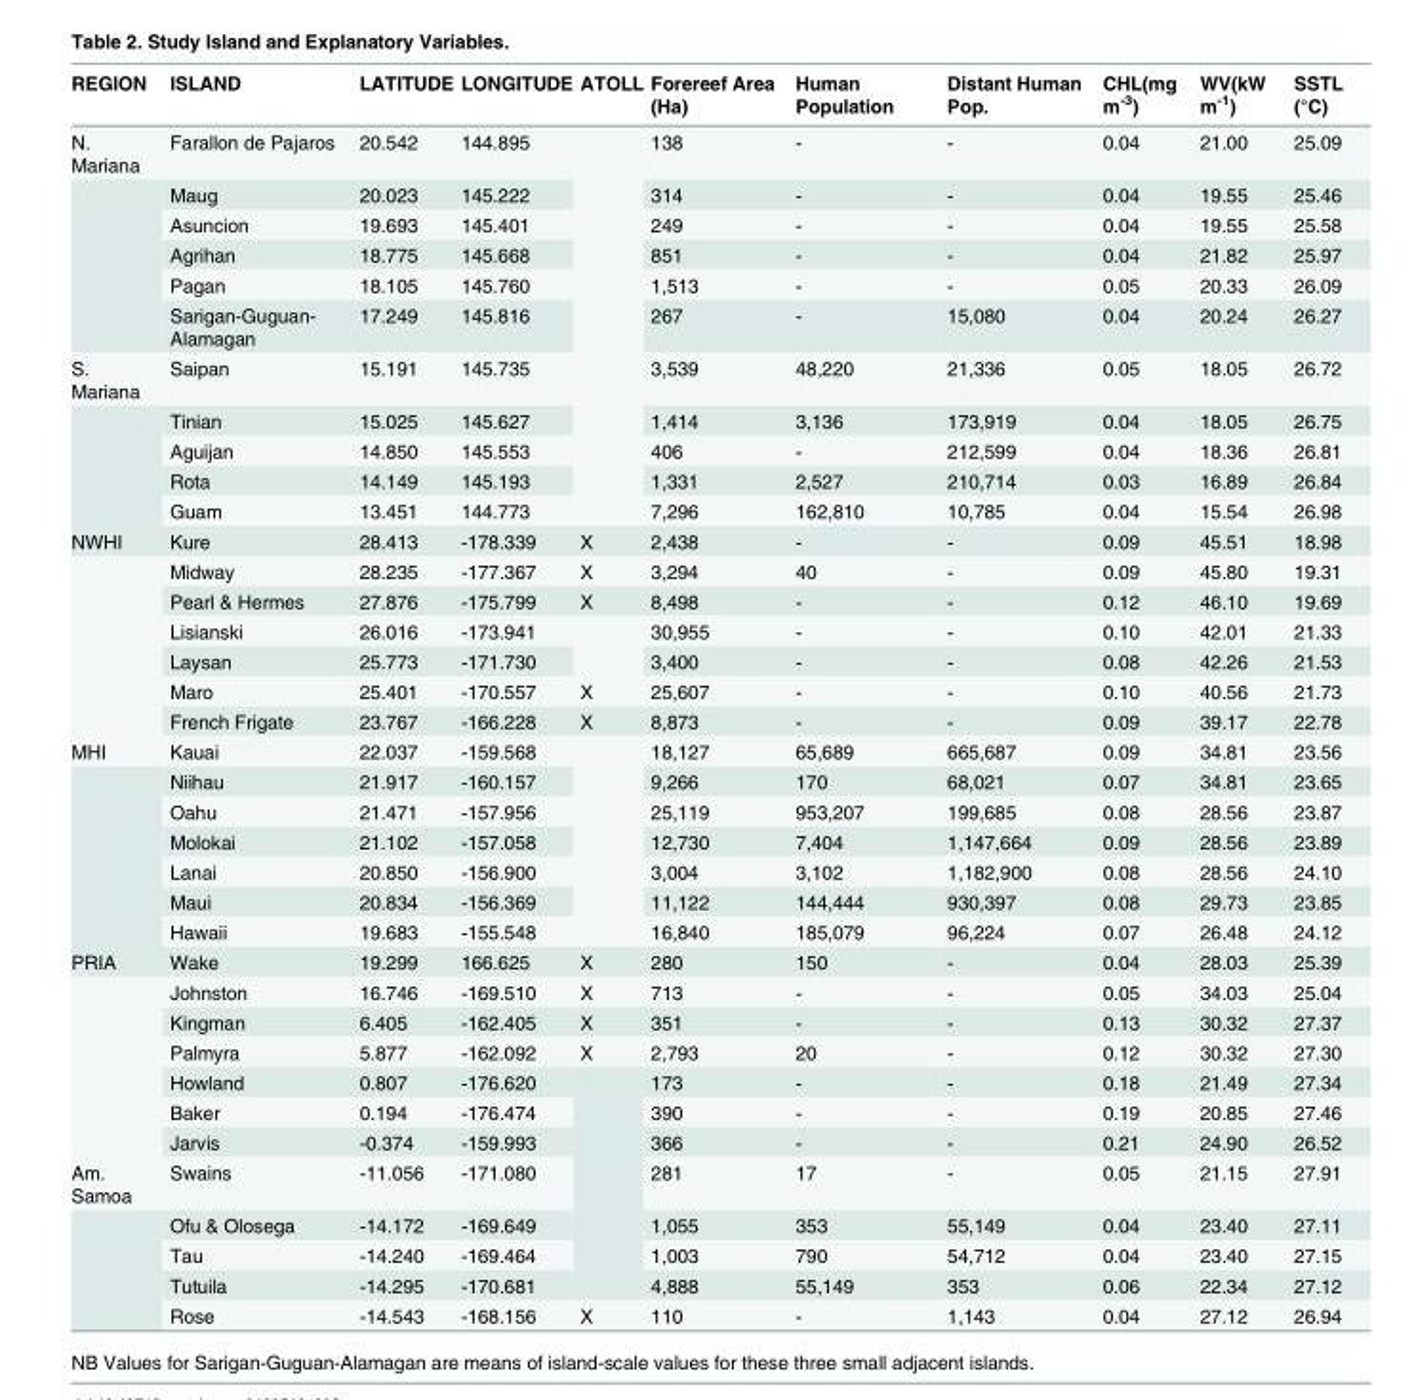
<table><thead><tr><td>REGION</td><td>ISLAND</td><td>LATITUDE</td><td>LONGITUDE</td><td>ATOLL</td><td>Forereef Area (Ha)</td><td>Human Population</td><td>Distant Human Pop.</td><td>CHL(mg m<sup>-3</sup>)</td><td>WV(kW m<sup>-1</sup>)</td><td>SSTL (°C)</td></tr></thead><tbody><tr><td rowspan="6">N. Mariana</td><td>Farallon de Pajaros</td><td>20.542</td><td>144.895</td><td rowspan="11"></td><td>138</td><td>-</td><td>-</td><td>0.04</td><td>21.00</td><td>25.09</td></tr><tr><td>Maug</td><td>20.023</td><td>145.222</td><td>314</td><td>-</td><td>-</td><td>0.04</td><td>19.55</td><td>25.46</td></tr><tr><td>Asuncion</td><td>19.693</td><td>145.401</td><td>249</td><td>-</td><td>-</td><td>0.04</td><td>19.55</td><td>25.58</td></tr><tr><td>Agrihan</td><td>18.775</td><td>145.668</td><td>851</td><td>-</td><td>-</td><td>0.04</td><td>21.82</td><td>25.97</td></tr><tr><td>Pagan</td><td>18.105</td><td>145.760</td><td>1,513</td><td>-</td><td>-</td><td>0.05</td><td>20.33</td><td>26.09</td></tr><tr><td>Sarigan-Guguan- Alamagan</td><td>17.249</td><td>145.816</td><td>267</td><td>-</td><td>15,080</td><td>0.04</td><td>20.24</td><td>26.27</td></tr><tr><td rowspan="5">S. Mariana</td><td>Saipan</td><td>15.191</td><td>145.735</td><td>3,539</td><td>48,220</td><td>21,336</td><td>0.05</td><td>18.05</td><td>26.72</td></tr><tr><td>Tinian</td><td>15.025</td><td>145.627</td><td>1,414</td><td>3,136</td><td>173,919</td><td>0.04</td><td>18.05</td><td>26.75</td></tr><tr><td>Aguijan</td><td>14.850</td><td>145.553</td><td>406</td><td>-</td><td>212,599</td><td>0.04</td><td>18.36</td><td>26.81</td></tr><tr><td>Rota</td><td>14.149</td><td>145.193</td><td>1,331</td><td>2,527</td><td>210,714</td><td>0.03</td><td>16.89</td><td>26.84</td></tr><tr><td>Guam</td><td>13.451</td><td>144.773</td><td>7,296</td><td>162,810</td><td>10,785</td><td>0.04</td><td>15.54</td><td>26.98</td></tr><tr><td rowspan="7">NWHI</td><td>Kure</td><td>28.413</td><td>-178.339</td><td>X</td><td>2,438</td><td>-</td><td>-</td><td>0.09</td><td>45.51</td><td>18.98</td></tr><tr><td>Midway</td><td>28.235</td><td>-177.367</td><td>X</td><td>3,294</td><td>40</td><td>-</td><td>0.09</td><td>45.80</td><td>19.31</td></tr><tr><td>Pearl &amp; Hermes</td><td>27.876</td><td>-175.799</td><td>X</td><td>8,498</td><td>-</td><td>-</td><td>0.12</td><td>46.10</td><td>19.69</td></tr><tr><td>Lisianski</td><td>26.016</td><td>-173.941</td><td rowspan="2"></td><td>30,955</td><td>-</td><td>-</td><td>0.10</td><td>42.01</td><td>21.33</td></tr><tr><td>Laysan</td><td>25.773</td><td>-171.730</td><td>3,400</td><td>-</td><td>-</td><td>0.08</td><td>42.26</td><td>21.53</td></tr><tr><td>Maro</td><td>25.401</td><td>-170.557</td><td>X</td><td>25,607</td><td>-</td><td>-</td><td>0.10</td><td>40.56</td><td>21.73</td></tr><tr><td>French Frigate</td><td>23.767</td><td>-166.228</td><td>X</td><td>8,873</td><td>-</td><td>-</td><td>0.09</td><td>39.17</td><td>22.78</td></tr><tr><td rowspan="7">MHI</td><td>Kauai</td><td>22.037</td><td>-159.568</td><td rowspan="7"></td><td>18,127</td><td>65,689</td><td>665,687</td><td>0.09</td><td>34.81</td><td>23.56</td></tr><tr><td>Niihau</td><td>21.917</td><td>-160.157</td><td>9,266</td><td>170</td><td>68,021</td><td>0.07</td><td>34.81</td><td>23.65</td></tr><tr><td>Oahu</td><td>21.471</td><td>-157.956</td><td>25,119</td><td>953,207</td><td>199,685</td><td>0.08</td><td>28.56</td><td>23.87</td></tr><tr><td>Molokai</td><td>21.102</td><td>-157.058</td><td>12,730</td><td>7,404</td><td>1,147,664</td><td>0.09</td><td>28.56</td><td>23.89</td></tr><tr><td>Lanai</td><td>20.850</td><td>-156.900</td><td>3,004</td><td>3,102</td><td>1,182,900</td><td>0.08</td><td>28.56</td><td>24.10</td></tr><tr><td>Maui</td><td>20.834</td><td>-156.369</td><td>11,122</td><td>144,444</td><td>930,397</td><td>0.08</td><td>29.73</td><td>23.85</td></tr><tr><td>Hawaii</td><td>19.683</td><td>-155.548</td><td>16,840</td><td>185,079</td><td>96,224</td><td>0.07</td><td>26.48</td><td>24.12</td></tr><tr><td rowspan="7">PRIA</td><td>Wake</td><td>19.299</td><td>166.625</td><td>X</td><td>280</td><td>150</td><td>-</td><td>0.04</td><td>28.03</td><td>25.39</td></tr><tr><td>Johnston</td><td>16.746</td><td>-169.510</td><td>X</td><td>713</td><td>-</td><td>-</td><td>0.05</td><td>34.03</td><td>25.04</td></tr><tr><td>Kingman</td><td>6.405</td><td>-162.405</td><td>X</td><td>351</td><td>-</td><td>-</td><td>0.13</td><td>30.32</td><td>27.37</td></tr><tr><td>Palmyra</td><td>5.877</td><td>-162.092</td><td>X</td><td>2,793</td><td>20</td><td>-</td><td>0.12</td><td>30.32</td><td>27.30</td></tr><tr><td>Howland</td><td>0.807</td><td>-176.620</td><td rowspan="7"></td><td>173</td><td>-</td><td>-</td><td>0.18</td><td>21.49</td><td>27.34</td></tr><tr><td>Baker</td><td>0.194</td><td>-176.474</td><td>390</td><td>-</td><td>-</td><td>0.19</td><td>20.85</td><td>27.46</td></tr><tr><td>Jarvis</td><td>-0.374</td><td>-159.993</td><td>366</td><td>-</td><td>-</td><td>0.21</td><td>24.90</td><td>26.52</td></tr><tr><td rowspan="5">Am. Samoa</td><td>Swains</td><td>-11.056</td><td>-171.080</td><td>281</td><td>17</td><td>-</td><td>0.05</td><td>21.15</td><td>27.91</td></tr><tr><td>Ofu &amp; Olosega</td><td>-14.172</td><td>-169.649</td><td>1,055</td><td>353</td><td>55,149</td><td>0.04</td><td>23.40</td><td>27.11</td></tr><tr><td>Tau</td><td>-14.240</td><td>-169.464</td><td>1,003</td><td>790</td><td>54,712</td><td>0.04</td><td>23.40</td><td>27.15</td></tr><tr><td>Tutuila</td><td>-14.295</td><td>-170.681</td><td>4,888</td><td>55,149</td><td>353</td><td>0.06</td><td>22.34</td><td>27.12</td></tr><tr><td>Rose</td><td>-14.543</td><td>-168.156</td><td>X</td><td>110</td><td>-</td><td>1,143</td><td>0.04</td><td>27.12</td><td>26.94</td></tr></tbody></table>